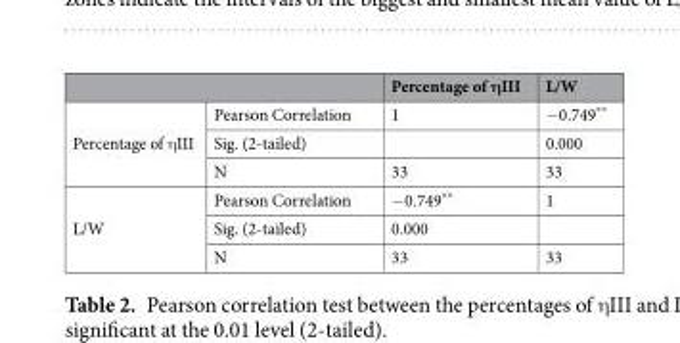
<table><thead><tr><td></td><td></td><td>Percentage of ηIII</td><td>L/W</td></tr></thead><tbody><tr><td rowspan="3">Percentage of ηIII</td><td>Pearson Correlation</td><td>1</td><td>−0.749**</td></tr><tr><td>Sig. (2-tailed)</td><td></td><td>0.000</td></tr><tr><td>N</td><td>33</td><td>33</td></tr><tr><td rowspan="3">L/W</td><td>Pearson Correlation</td><td>−0.749**</td><td>1</td></tr><tr><td>Sig. (2-tailed)</td><td>0.000</td><td></td></tr><tr><td>N</td><td>33</td><td>33</td></tr></tbody></table>